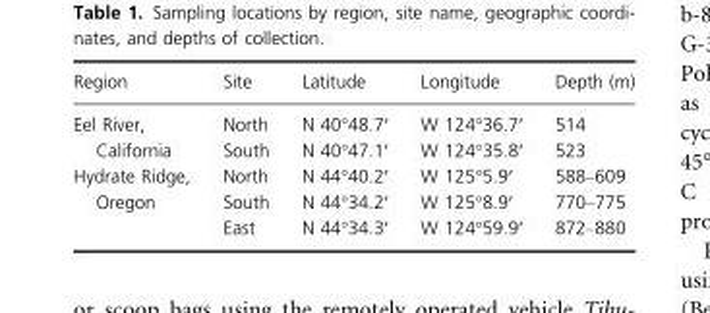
<table><thead><tr><td>Region</td><td>Site</td><td>Latitude</td><td>Longitude</td><td>Depth (m)</td></tr></thead><tbody><tr><td rowspan="2">Eel River, California</td><td>North</td><td>N 40°48.7′</td><td>W 124°36.7′</td><td>514</td></tr><tr><td>South</td><td>N 40°47.1′</td><td>W 124°35.8′</td><td>523</td></tr><tr><td rowspan="3">Hydrate Ridge, Oregon</td><td>North</td><td>N 44°40.2′</td><td>W 125°5.9′</td><td>588–609</td></tr><tr><td>South</td><td>N 44°34.2′</td><td>W 125°8.9′</td><td>770–775</td></tr><tr><td>East</td><td>N 44°34.3′</td><td>W 124°59.9′</td><td>872–880</td></tr></tbody></table>